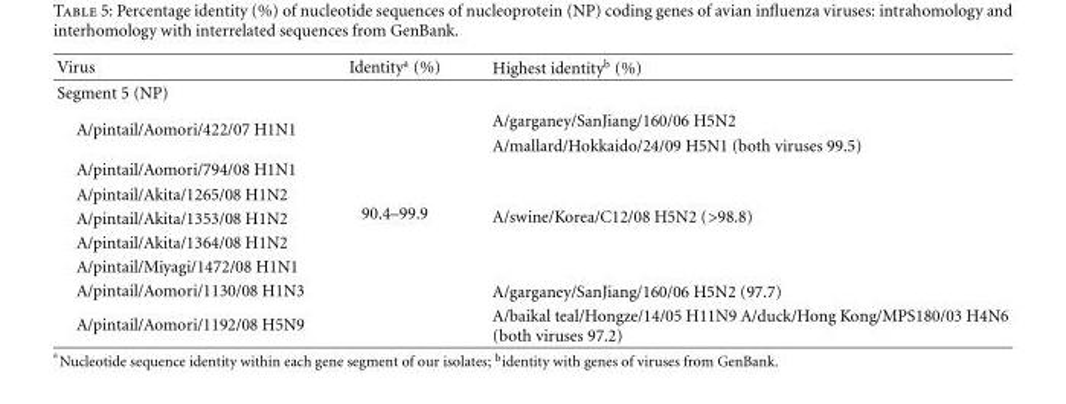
<table><thead><tr><td>Virus</td><td>Identity<sup>a</sup> (%)</td><td>Highest identity<sup>b</sup> (%)</td></tr></thead><tbody><tr><td colspan="3">Segment 5 (NP)</td></tr><tr><td rowspan="2">A/pintail/Aomori/422/07 H1N1</td><td rowspan="9">90.4–99.9</td><td>A/garganey/SanJiang/160/06 H5N2</td></tr><tr><td>A/mallard/Hokkaido/24/09 H5N1 (both viruses 99.5)</td></tr><tr><td>A/pintail/Aomori/794/08 H1N1</td><td rowspan="5">A/swine/Korea/C12/08 H5N2 (&gt;98.8)</td></tr><tr><td>A/pintail/Akita/1265/08 H1N2</td></tr><tr><td>A/pintail/Akita/1353/08 H1N2</td></tr><tr><td>A/pintail/Akita/1364/08 H1N2</td></tr><tr><td>A/pintail/Miyagi/1472/08 H1N1</td></tr><tr><td>A/pintail/Aomori/1130/08 H1N3</td><td>A/garganey/SanJiang/160/06 H5N2 (97.7)</td></tr><tr><td>A/pintail/Aomori/1192/08 H5N9</td><td>A/baikal teal/Hongze/14/05 H11N9 A/duck/Hong Kong/MPS180/03 H4N6 (both viruses 97.2)</td></tr></tbody></table>